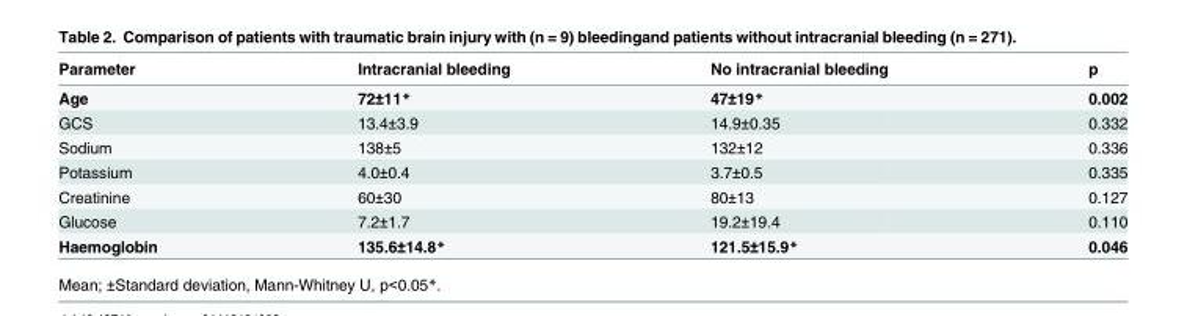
<table><thead><tr><td>Parameter</td><td>Intracranial bleeding</td><td>No intracranial bleeding</td><td>p</td></tr></thead><tbody><tr><td>Age</td><td>72±11*</td><td>47±19*</td><td>0.002</td></tr><tr><td>GCS</td><td>13.4±3.9</td><td>14.9±0.35</td><td>0.332</td></tr><tr><td>Sodium</td><td>138±5</td><td>132±12</td><td>0.336</td></tr><tr><td>Potassium</td><td>4.0±0.4</td><td>3.7±0.5</td><td>0.335</td></tr><tr><td>Creatinine</td><td>60±30</td><td>80±13</td><td>0.127</td></tr><tr><td>Glucose</td><td>7.2±1.7</td><td>19.2±19.4</td><td>0.110</td></tr><tr><td>Haemoglobin</td><td>135.6±14.8*</td><td>121.5±15.9*</td><td>0.046</td></tr></tbody></table>